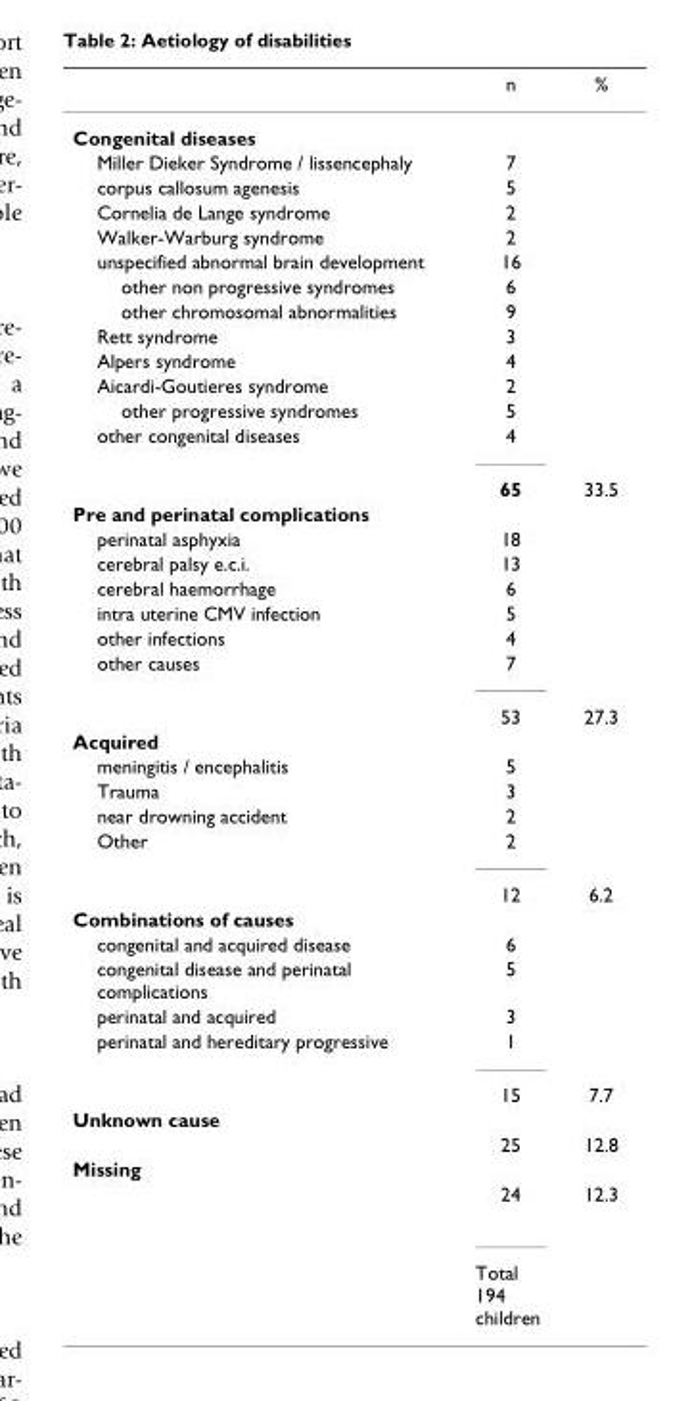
<table><thead><tr><td></td><td>n</td><td>%</td></tr></thead><tbody><tr><td colspan="3">Congenital diseases</td></tr><tr><td>Miller Dieker Syndrome / lissencephaly</td><td>7</td><td></td></tr><tr><td>corpus callosum agenesis</td><td>5</td><td></td></tr><tr><td>Cornelia de Lange syndrome</td><td>2</td><td></td></tr><tr><td>Walker-Warburg syndrome</td><td>2</td><td></td></tr><tr><td>unspecified abnormal brain development</td><td>16</td><td></td></tr><tr><td>other non progressive syndromes</td><td>6</td><td></td></tr><tr><td>other chromosomal abnormalities</td><td>9</td><td></td></tr><tr><td>Rett syndrome</td><td>3</td><td></td></tr><tr><td>Alpers syndrome</td><td>4</td><td></td></tr><tr><td>Aicardi-Goutieres syndrome</td><td>2</td><td></td></tr><tr><td>other progressive syndromes</td><td>5</td><td></td></tr><tr><td rowspan="2">other congenital diseases</td><td>4</td><td></td></tr><tr><td>65</td><td>33.5</td></tr><tr><td colspan="3">Pre and perinatal complications</td></tr><tr><td>perinatal asphyxia</td><td>18</td><td></td></tr><tr><td>cerebral palsy e.c.i.</td><td>13</td><td></td></tr><tr><td>cerebral haemorrhage</td><td>6</td><td></td></tr><tr><td>intra uterine CMV infection</td><td>5</td><td></td></tr><tr><td>other infections</td><td>4</td><td></td></tr><tr><td rowspan="2">other causes</td><td>7</td><td></td></tr><tr><td>53</td><td>27.3</td></tr><tr><td colspan="3">Acquired</td></tr><tr><td>meningitis / encephalitis</td><td>5</td><td></td></tr><tr><td>Trauma</td><td>3</td><td></td></tr><tr><td>near drowning accident</td><td>2</td><td></td></tr><tr><td rowspan="2">Other</td><td>2</td><td></td></tr><tr><td>12</td><td>6.2</td></tr><tr><td colspan="3">Combinations of causes</td></tr><tr><td>congenital and acquired disease</td><td>6</td><td></td></tr><tr><td>congenital disease and perinatal complications</td><td>5</td><td></td></tr><tr><td>perinatal and acquired</td><td>3</td><td></td></tr><tr><td rowspan="2">perinatal and hereditary progressive</td><td>1</td><td></td></tr><tr><td>15</td><td>7.7</td></tr><tr><td colspan="3">Unknown cause</td></tr><tr><td></td><td>25</td><td>12.8</td></tr><tr><td colspan="3">Missing</td></tr><tr><td></td><td>24</td><td>12.3</td></tr><tr><td></td><td>Total 194 children</td><td></td></tr></tbody></table>